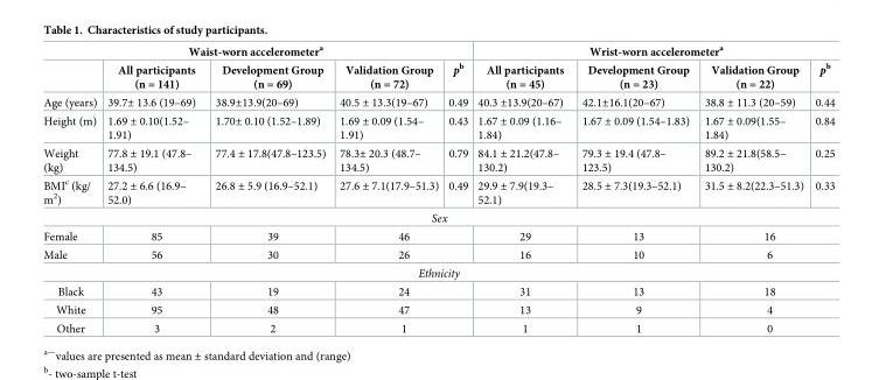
<table><thead><tr><td colspan="5">Waist-worn accelerometer<sup>a</sup></td><td colspan="4">Wrist-worn accelerometer<sup>a</sup></td></tr><tr><td></td><td>All participants (n = 141)</td><td>Development Group (n = 69)</td><td>Validation Group (n = 72)</td><td>p<sup>b</sup></td><td>All participants (n = 45)</td><td>Development Group (n = 23)</td><td>Validation Group (n = 22)</td><td>p<sup>b</sup></td></tr></thead><tbody><tr><td>Age (years)</td><td>39.7± 13.6 (19–69)</td><td>38.9±13.9(20–69)</td><td>40.5 ± 13.3(19–67)</td><td>0.49</td><td>40.3 ±13.9(20–67)</td><td>42.1±16.1(20–67)</td><td>38.8 ± 11.3 (20–59)</td><td>0.44</td></tr><tr><td>Height (m)</td><td>1.69 ± 0.10(1.52– 1.91)</td><td>1.70± 0.10 (1.52–1.89)</td><td>1.69 ± 0.09 (1.54– 1.91)</td><td>0.43</td><td>1.67 ± 0.09 (1.16– 1.84)</td><td>1.67 ± 0.09 (1.54–1.83)</td><td>1.67 ± 0.09(1.55– 1.84)</td><td>0.84</td></tr><tr><td>Weight (kg)</td><td>77.8 ± 19.1 (47.8– 134.5)</td><td>77.4 ± 17.8(47.8–123.5)</td><td>78.3± 20.3 (48.7– 134.5)</td><td>0.79</td><td>84.1 ± 21.2(47.8– 130.2)</td><td>79.3 ± 19.4 (47.8– 123.5)</td><td>89.2 ± 21.8(58.5– 130.2)</td><td>0.25</td></tr><tr><td>BMI<sup>c</sup> (kg/ m<sup>2</sup>)</td><td>27.2 ± 6.6 (16.9– 52.0)</td><td>26.8 ± 5.9 (16.9–52.1)</td><td>27.6 ± 7.1(17.9–51.3)</td><td>0.49</td><td>29.9 ± 7.9(19.3– 52.1)</td><td>28.5 ± 7.3(19.3–52.1)</td><td>31.5 ± 8.2(22.3–51.3)</td><td>0.33</td></tr><tr><td colspan="9">Sex</td></tr><tr><td>Female</td><td>85</td><td>39</td><td colspan="2">46</td><td>29</td><td>13</td><td colspan="2">16</td></tr><tr><td>Male</td><td>56</td><td>30</td><td colspan="2">26</td><td>16</td><td>10</td><td colspan="2">6</td></tr><tr><td colspan="9">Ethnicity</td></tr><tr><td>Black</td><td>43</td><td>19</td><td colspan="2">24</td><td>31</td><td>13</td><td colspan="2">18</td></tr><tr><td>White</td><td>95</td><td>48</td><td colspan="2">47</td><td>13</td><td>9</td><td colspan="2">4</td></tr><tr><td>Other</td><td>3</td><td>2</td><td colspan="2">1</td><td>1</td><td>1</td><td colspan="2">0</td></tr></tbody></table>